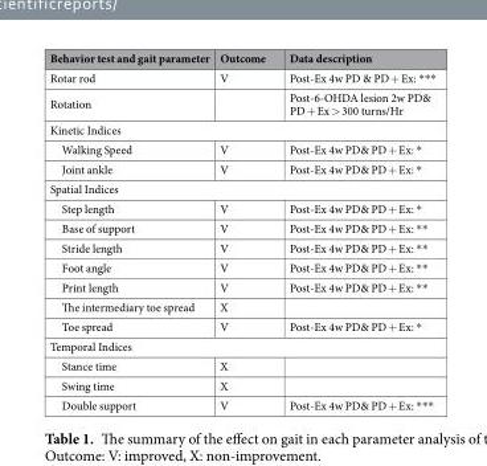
<table><thead><tr><td>Behavior test and gait parameter</td><td>Outcome</td><td>Data description</td></tr></thead><tbody><tr><td>Rotar rod</td><td>V</td><td>Post-Ex 4w PD &amp; PD + Ex: ***</td></tr><tr><td>Rotation</td><td></td><td>Post-6-OHDA lesion 2w PD&amp; PD + Ex &gt; 300 turns/Hr</td></tr><tr><td colspan="3">Kinetic Indices</td></tr><tr><td>Walking Speed</td><td>V</td><td>Post-Ex 4w PD&amp; PD + Ex: *</td></tr><tr><td>Joint ankle</td><td>V</td><td>Post-Ex 4w PD&amp; PD + Ex: *</td></tr><tr><td colspan="3">Spatial Indices</td></tr><tr><td>Step length</td><td>V</td><td>Post-Ex 4w PD&amp; PD + Ex: *</td></tr><tr><td>Base of support</td><td>V</td><td>Post-Ex 4w PD&amp; PD + Ex: **</td></tr><tr><td>Stride length</td><td>V</td><td>Post-Ex 4w PD&amp; PD + Ex: **</td></tr><tr><td>Foot angle</td><td>V</td><td>Post-Ex 4w PD&amp; PD + Ex: **</td></tr><tr><td>Print length</td><td>V</td><td>Post-Ex 4w PD&amp; PD + Ex: **</td></tr><tr><td>The intermediary toe spread</td><td>X</td><td></td></tr><tr><td>Toe spread</td><td>V</td><td>Post-Ex 4w PD&amp; PD + Ex: *</td></tr><tr><td colspan="3">Temporal Indices</td></tr><tr><td>Stance time</td><td>X</td><td></td></tr><tr><td>Swing time</td><td>X</td><td></td></tr><tr><td>Double support</td><td>V</td><td>Post-Ex 4w PD&amp; PD + Ex: ***</td></tr></tbody></table>